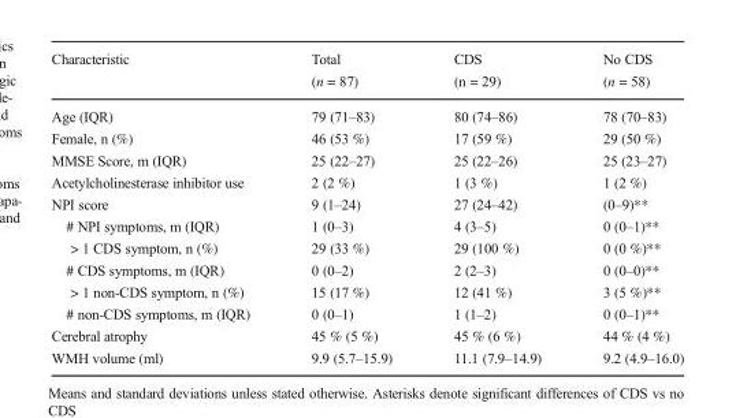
<table><thead><tr><td>Characteristic</td><td>Total (n = 87)</td><td>CDS (n = 29)</td><td>No CDS (n = 58)</td></tr></thead><tbody><tr><td>Age (IQR)</td><td>79 (71–83)</td><td>80 (74–86)</td><td>78 (70–83)</td></tr><tr><td>Female, n (%)</td><td>46 (53 %)</td><td>17 (59 %)</td><td>29 (50 %)</td></tr><tr><td>MMSE Score, m (IQR)</td><td>25 (22–27)</td><td>25 (22–26)</td><td>25 (23–27)</td></tr><tr><td>Acetylcholinesterase inhibitor use</td><td>2 (2 %)</td><td>1 (3 %)</td><td>1 (2 %)</td></tr><tr><td>NPI score</td><td>9 (1–24)</td><td>27 (24–42)</td><td>(0–9)**</td></tr><tr><td># NPI symptoms, m (IQR)</td><td>1 (0–3)</td><td>4 (3–5)</td><td>0 (0–1)**</td></tr><tr><td>&gt; 1 CDS symptom, n (%)</td><td>29 (33 %)</td><td>29 (100 %)</td><td>0 (0 %)**</td></tr><tr><td># CDS symptoms, m (IQR)</td><td>0 (0–2)</td><td>2 (2–3)</td><td>0 (0–0)**</td></tr><tr><td>&gt; 1 non-CDS symptom, n (%)</td><td>15 (17 %)</td><td>12 (41 %)</td><td>3 (5 %)**</td></tr><tr><td># non-CDS symptoms, m (IQR)</td><td>0 (0–1)</td><td>1 (1–2)</td><td>0 (0–1)**</td></tr><tr><td>Cerebral atrophy</td><td>45 % (5 %)</td><td>45 % (6 %)</td><td>44 % (4 %)</td></tr><tr><td>WMH volume (ml)</td><td>9.9 (5.7–15.9)</td><td>11.1 (7.9–14.9)</td><td>9.2 (4.9–16.0)</td></tr></tbody></table>